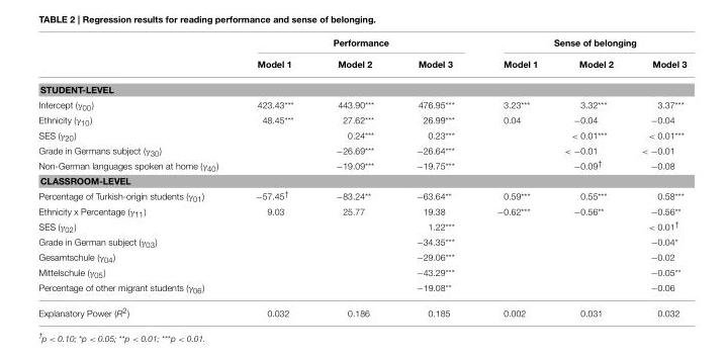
<table><thead><tr><td rowspan="2"></td><td colspan="3">Performance</td><td colspan="3">Sense of belonging</td></tr><tr><td>Model 1</td><td>Model 2</td><td>Model 3</td><td>Model 1</td><td>Model 2</td><td>Model 3</td></tr></thead><tbody><tr><td colspan="7">STUDENT-LEVEL</td></tr><tr><td>Intercept (γ00)</td><td>423.43***</td><td>443.90***</td><td>476.95***</td><td>3.23***</td><td>3.32***</td><td>3.37***</td></tr><tr><td>Ethnicity (γ10)</td><td>48.45***</td><td>27.62***</td><td>26.99***</td><td>0.04</td><td>−0.04</td><td>−0.04</td></tr><tr><td>SES (γ20)</td><td></td><td>0.24***</td><td>0.23***</td><td></td><td>&lt; 0.01***</td><td>&lt; 0.01***</td></tr><tr><td>Grade in Germans subject (γ30)</td><td></td><td>−26.69***</td><td>−26.64***</td><td></td><td>&lt; −0.01</td><td>&lt; −0.01</td></tr><tr><td>Non-German languages spoken at home (γ40)</td><td></td><td>−19.09***</td><td>−19.75***</td><td></td><td>−0.09<sup>†</sup></td><td>−0.08</td></tr><tr><td colspan="7">CLASSROOM-LEVEL</td></tr><tr><td>Percentage of Turkish-origin students (γ01)</td><td>−57.45<sup>†</sup></td><td>−83.24**</td><td>−63.64**</td><td>0.59***</td><td>0.55***</td><td>0.58***</td></tr><tr><td>Ethnicity x Percentage (γ11)</td><td>9.03</td><td>25.77</td><td>19.38</td><td>−0.62***</td><td>−0.56**</td><td>−0.56**</td></tr><tr><td>SES (γ02)</td><td></td><td></td><td>1.22***</td><td></td><td></td><td>&lt; 0.01<sup>†</sup></td></tr><tr><td>Grade in German subject (γ03)</td><td></td><td></td><td>−34.35***</td><td></td><td></td><td>−0.04*</td></tr><tr><td>Gesamtschule (γ04)</td><td></td><td></td><td>−29.06***</td><td></td><td></td><td>−0.02</td></tr><tr><td>Mittelschule (γ05)</td><td></td><td></td><td>−43.29***</td><td></td><td></td><td>−0.05**</td></tr><tr><td>Percentage of other migrant students (γ06)</td><td></td><td></td><td>−19.08**</td><td></td><td></td><td>−0.06</td></tr><tr><td>Explanatory Power (R<sup>2</sup>)</td><td>0.032</td><td>0.186</td><td>0.185</td><td>0.002</td><td>0.031</td><td>0.032</td></tr></tbody></table>